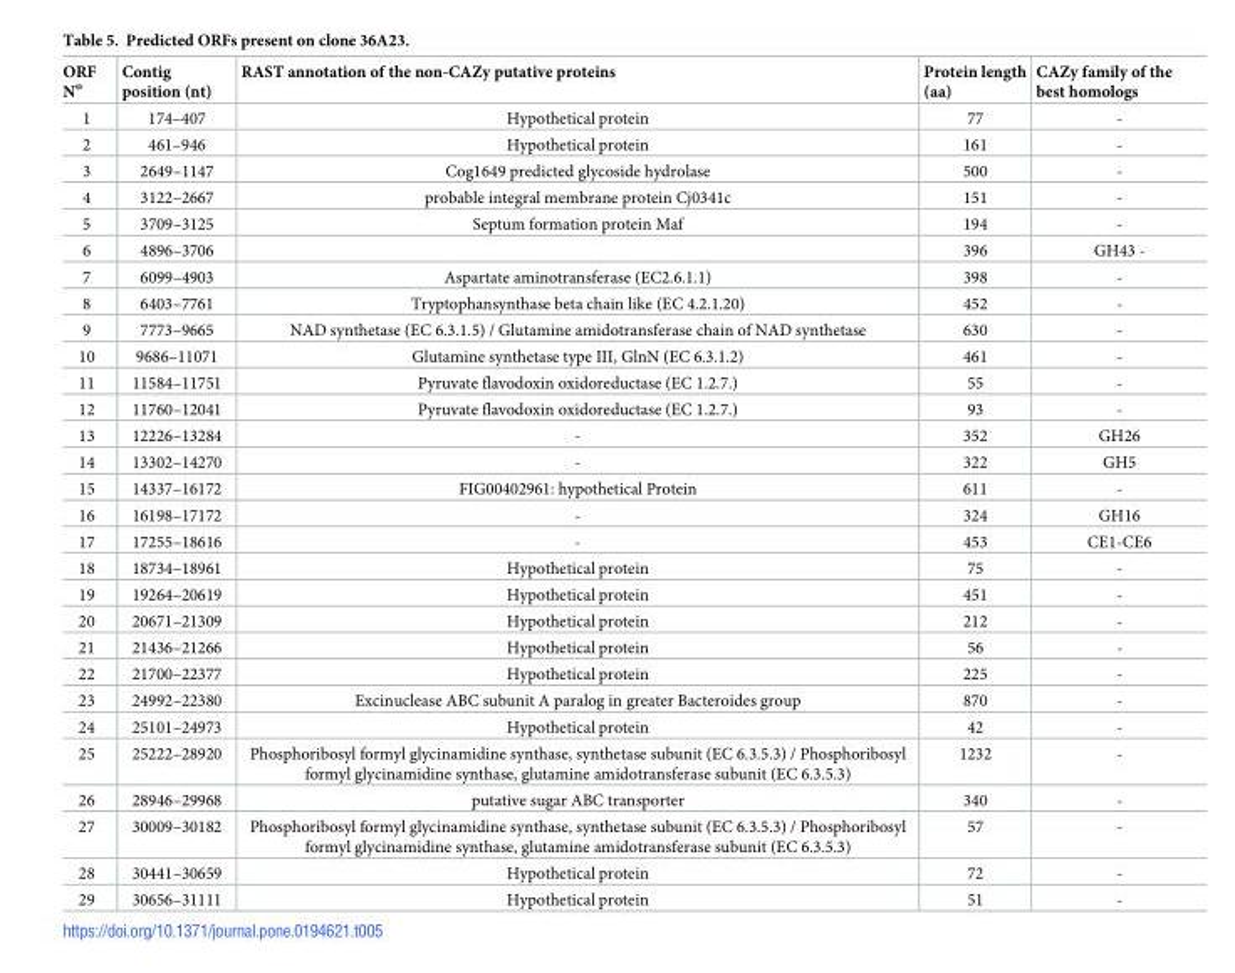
<table><thead><tr><td>ORF N<sup>o</sup></td><td>Contig position (nt)</td><td>RAST annotation of the non-CAZy putative proteins</td><td>Protein length (aa)</td><td>CAZy family of the best homologs</td></tr></thead><tbody><tr><td>1</td><td>174–407</td><td>Hypothetical protein</td><td>77</td><td>-</td></tr><tr><td>2</td><td>461–946</td><td>Hypothetical protein</td><td>161</td><td>-</td></tr><tr><td>3</td><td>2649–1147</td><td>Cog1649 predicted glycoside hydrolase</td><td>500</td><td>-</td></tr><tr><td>4</td><td>3122–2667</td><td>probable integral membrane protein Cj0341c</td><td>151</td><td>-</td></tr><tr><td>5</td><td>3709–3125</td><td>Septum formation protein Maf</td><td>194</td><td>-</td></tr><tr><td>6</td><td>4896–3706</td><td></td><td>396</td><td>GH43 -</td></tr><tr><td>7</td><td>6099–4903</td><td>Aspartate aminotransferase (EC2.6.1.1)</td><td>398</td><td>-</td></tr><tr><td>8</td><td>6403–7761</td><td>Tryptophansynthase beta chain like (EC 4.2.1.20)</td><td>452</td><td>-</td></tr><tr><td>9</td><td>7773–9665</td><td>NAD synthetase (EC 6.3.1.5) / Glutamine amidotransferase chain of NAD synthetase</td><td>630</td><td>-</td></tr><tr><td>10</td><td>9686–11071</td><td>Glutamine synthetase type III, GlnN (EC 6.3.1.2)</td><td>461</td><td>-</td></tr><tr><td>11</td><td>11584–11751</td><td>Pyruvate flavodoxin oxidoreductase (EC 1.2.7.)</td><td>55</td><td>-</td></tr><tr><td>12</td><td>11760–12041</td><td>Pyruvate flavodoxin oxidoreductase (EC 1.2.7.)</td><td>93</td><td>-</td></tr><tr><td>13</td><td>12226–13284</td><td>-</td><td>352</td><td>GH26</td></tr><tr><td>14</td><td>13302–14270</td><td>-</td><td>322</td><td>GH5</td></tr><tr><td>15</td><td>14337–16172</td><td>FIG00402961: hypothetical Protein</td><td>611</td><td>-</td></tr><tr><td>16</td><td>16198–17172</td><td>-</td><td>324</td><td>GH16</td></tr><tr><td>17</td><td>17255–18616</td><td>-</td><td>453</td><td>CE1-CE6</td></tr><tr><td>18</td><td>18734–18961</td><td>Hypothetical protein</td><td>75</td><td>-</td></tr><tr><td>19</td><td>19264–20619</td><td>Hypothetical protein</td><td>451</td><td>-</td></tr><tr><td>20</td><td>20671–21309</td><td>Hypothetical protein</td><td>212</td><td>-</td></tr><tr><td>21</td><td>21436–21266</td><td>Hypothetical protein</td><td>56</td><td>-</td></tr><tr><td>22</td><td>21700–22377</td><td>Hypothetical protein</td><td>225</td><td>-</td></tr><tr><td>23</td><td>24992–22380</td><td>Excinuclease ABC subunit A paralog in greater Bacteroides group</td><td>870</td><td>-</td></tr><tr><td>24</td><td>25101–24973</td><td>Hypothetical protein</td><td>42</td><td>-</td></tr><tr><td>25</td><td>25222–28920</td><td>Phosphoribosyl formyl glycinamidine synthase, synthetase subunit (EC 6.3.5.3) / Phosphoribosyl formyl glycinamidine synthase, glutamine amidotransferase subunit (EC 6.3.5.3)</td><td>1232</td><td>-</td></tr><tr><td>26</td><td>28946–29968</td><td>putative sugar ABC transporter</td><td>340</td><td>-</td></tr><tr><td>27</td><td>30009–30182</td><td>Phosphoribosyl formyl glycinamidine synthase, synthetase subunit (EC 6.3.5.3) / Phosphoribosyl formyl glycinamidine synthase, glutamine amidotransferase subunit (EC 6.3.5.3)</td><td>57</td><td>-</td></tr><tr><td>28</td><td>30441–30659</td><td>Hypothetical protein</td><td>72</td><td>-</td></tr><tr><td>29</td><td>30656–31111</td><td>Hypothetical protein</td><td>51</td><td>-</td></tr></tbody></table>